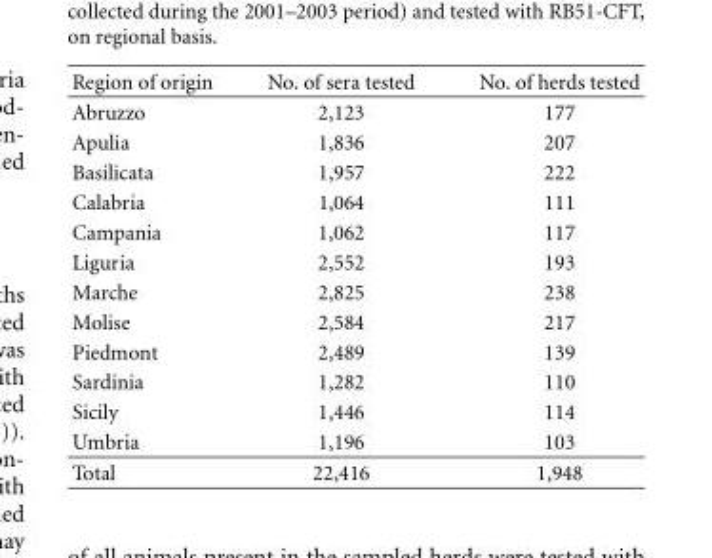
<table><thead><tr><td>Region of origin</td><td>No. of sera tested</td><td>No. of herds tested</td></tr></thead><tbody><tr><td>Abruzzo</td><td>2,123</td><td>177</td></tr><tr><td>Apulia</td><td>1,836</td><td>207</td></tr><tr><td>Basilicata</td><td>1,957</td><td>222</td></tr><tr><td>Calabria</td><td>1,064</td><td>111</td></tr><tr><td>Campania</td><td>1,062</td><td>117</td></tr><tr><td>Liguria</td><td>2,552</td><td>193</td></tr><tr><td>Marche</td><td>2,825</td><td>238</td></tr><tr><td>Molise</td><td>2,584</td><td>217</td></tr><tr><td>Piedmont</td><td>2,489</td><td>139</td></tr><tr><td>Sardinia</td><td>1,282</td><td>110</td></tr><tr><td>Sicily</td><td>1,446</td><td>114</td></tr><tr><td>Umbria</td><td>1,196</td><td>103</td></tr><tr><td>Total</td><td>22,416</td><td>1,948</td></tr></tbody></table>